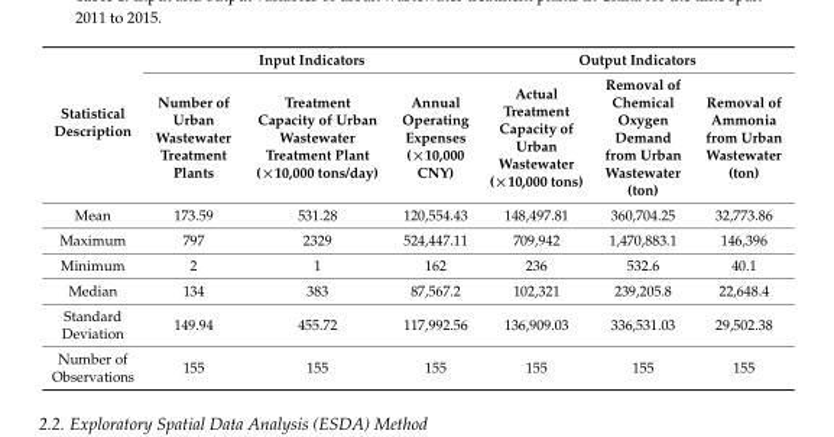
<table><thead><tr><td rowspan="2">Statistical Description</td><td colspan="3">Input Indicators</td><td colspan="3">Output Indicators</td></tr><tr><td>Number of Urban Wastewater Treatment Plants</td><td>Treatment Capacity of Urban Wastewater Treatment Plant (×10,000 tons/day)</td><td>Annual Operating Expenses (×10,000 CNY)</td><td>Actual Treatment Capacity of Urban Wastewater (×10,000 tons)</td><td>Removal of Chemical Oxygen Demand from Urban Wastewater (ton)</td><td>Removal of Ammonia from Urban Wastewater (ton)</td></tr></thead><tbody><tr><td>Mean</td><td>173.59</td><td>531.28</td><td>120,554.43</td><td>148,497.81</td><td>360,704.25</td><td>32,773.86</td></tr><tr><td>Maximum</td><td>797</td><td>2329</td><td>524,447.11</td><td>709,942</td><td>1,470,883.1</td><td>146,396</td></tr><tr><td>Minimum</td><td>2</td><td>1</td><td>162</td><td>236</td><td>532.6</td><td>40.1</td></tr><tr><td>Median</td><td>134</td><td>383</td><td>87,567.2</td><td>102,321</td><td>239,205.8</td><td>22,648.4</td></tr><tr><td>Standard Deviation</td><td>149.94</td><td>455.72</td><td>117,992.56</td><td>136,909.03</td><td>336,531.03</td><td>29,502.38</td></tr><tr><td>Number of Observations</td><td>155</td><td>155</td><td>155</td><td>155</td><td>155</td><td>155</td></tr></tbody></table>